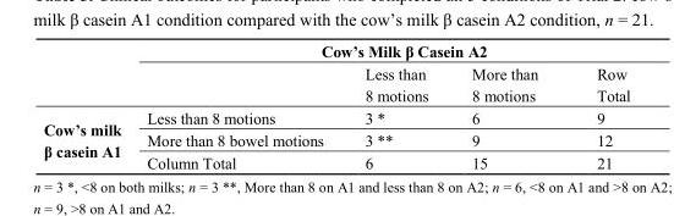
<table><thead><tr><td rowspan="2"></td><td colspan="4">Cow’s Milk β Casein A2</td></tr><tr><td></td><td>Less than 8 motions</td><td>More than 8 motions</td><td>Row Total</td></tr></thead><tbody><tr><td rowspan="3">Cow’s milk β casein A1</td><td>Less than 8 motions</td><td>3 *</td><td>6</td><td>9</td></tr><tr><td>More than 8 bowel motions</td><td>3 **</td><td>9</td><td>12</td></tr><tr><td>Column Total</td><td>6</td><td>15</td><td>21</td></tr></tbody></table>